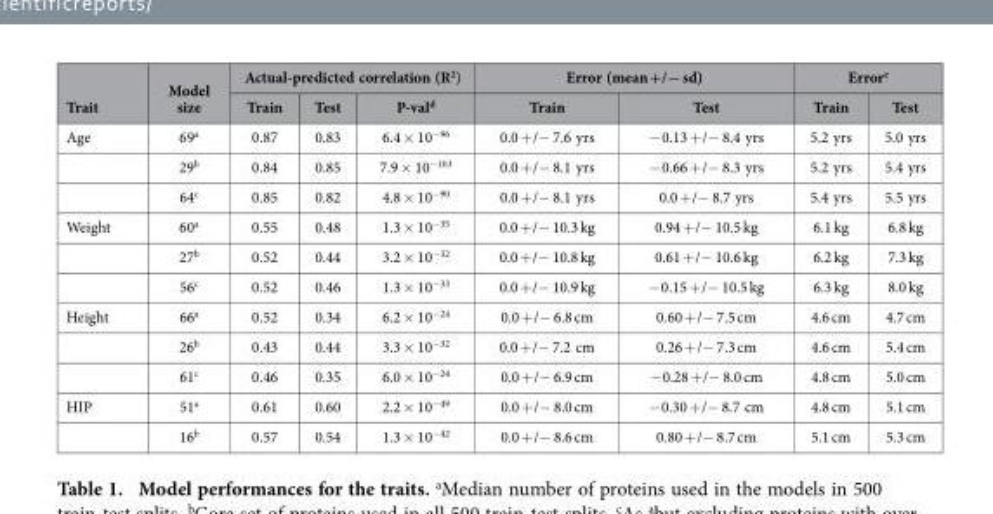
<table><thead><tr><td rowspan="2">Trait</td><td rowspan="2">Model size</td><td colspan="3">Actual-predicted correlation (R<sup>2</sup>)</td><td colspan="2">Error (mean +/− sd)</td><td colspan="2">Error<sup>e</sup></td></tr><tr><td>Train</td><td>Test</td><td>P-val<sup>d</sup></td><td>Train</td><td>Test</td><td>Train</td><td>Test</td></tr></thead><tbody><tr><td rowspan="3">Age</td><td>69<sup>a</sup></td><td>0.87</td><td>0.83</td><td>6.4 × 10<sup>−96</sup></td><td>0.0 + /− 7.6 yrs</td><td>− 0.13 + /− 8.4 yrs</td><td>5.2 yrs</td><td>5.0 yrs</td></tr><tr><td>29<sup>b</sup></td><td>0.84</td><td>0.85</td><td>7.9 × 10<sup>−103</sup></td><td>0.0 + /− 8.1 yrs</td><td>− 0.66 + /− 8.3 yrs</td><td>5.2 yrs</td><td>5.4 yrs</td></tr><tr><td>64<sup>c</sup></td><td>0.85</td><td>0.82</td><td>4.8 × 10<sup>−90</sup></td><td>0.0 + /− 8.1 yrs</td><td>0.0 + /− 8.7 yrs</td><td>5.4 yrs</td><td>5.5 yrs</td></tr><tr><td rowspan="3">Weight</td><td>60<sup>a</sup></td><td>0.55</td><td>0.48</td><td>1.3 × 10<sup>−35</sup></td><td>0.0 + /− 10.3 kg</td><td>0.94 + /− 10.5 kg</td><td>6.1 kg</td><td>6.8 kg</td></tr><tr><td>27<sup>b</sup></td><td>0.52</td><td>0.44</td><td>3.2 × 10<sup>−32</sup></td><td>0.0 + /− 10.8 kg</td><td>0.61 + /− 10.6 kg</td><td>6.2 kg</td><td>7.3 kg</td></tr><tr><td>56<sup>c</sup></td><td>0.52</td><td>0.46</td><td>1.3 × 10<sup>−33</sup></td><td>0.0 + /− 10.9 kg</td><td>− 0.15 + /− 10.5 kg</td><td>6.3 kg</td><td>8.0 kg</td></tr><tr><td rowspan="3">Height</td><td>66<sup>a</sup></td><td>0.52</td><td>0.34</td><td>6.2 × 10<sup>−24</sup></td><td>0.0 + /− 6.8 cm</td><td>0.60 + /− 7.5 cm</td><td>4.6 cm</td><td>4.7 cm</td></tr><tr><td>26<sup>b</sup></td><td>0.43</td><td>0.44</td><td>3.3 × 10<sup>−32</sup></td><td>0.0 + /− 7.2 cm</td><td>0.26 + /− 7.3 cm</td><td>4.6 cm</td><td>5.4 cm</td></tr><tr><td>61<sup>c</sup></td><td>0.46</td><td>0.35</td><td>6.0 × 10<sup>−24</sup></td><td>0.0 + /− 6.9 cm</td><td>− 0.28 + /− 8.0 cm</td><td>4.8 cm</td><td>5.0 cm</td></tr><tr><td rowspan="2">HIP</td><td>51<sup>a</sup></td><td>0.61</td><td>0.60</td><td>2.2 × 10<sup>−49</sup></td><td>0.0 + /− 8.0 cm</td><td>− 0.30 + /− 8.7 cm</td><td>4.8 cm</td><td>5.1 cm</td></tr><tr><td>16<sup>b</sup></td><td>0.57</td><td>0.54</td><td>1.3 × 10<sup>−42</sup></td><td>0.0 + /− 8.6 cm</td><td>0.80 + /− 8.7 cm</td><td>5.1 cm</td><td>5.3 cm</td></tr></tbody></table>